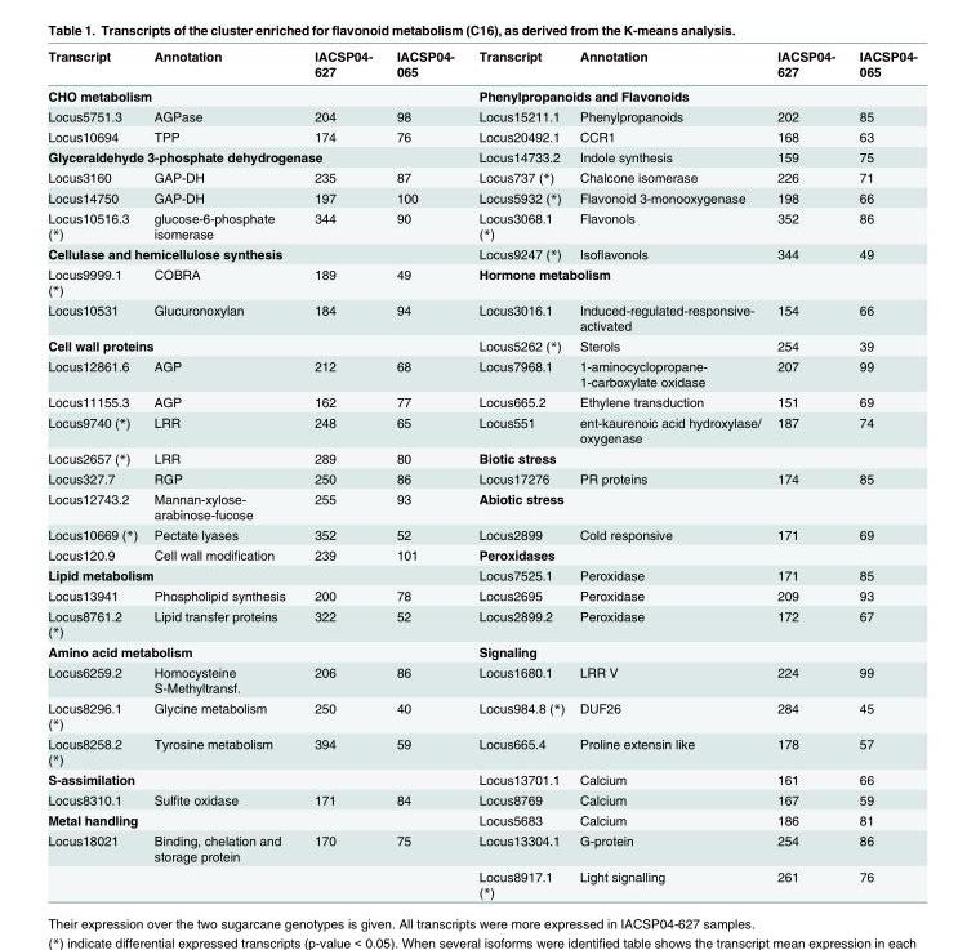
<table><thead><tr><td>Transcript</td><td>Annotation</td><td>IACSP04- 627</td><td>IACSP04- 065</td><td>Transcript</td><td>Annotation</td><td>IACSP04- 627</td><td>IACSP04- 065</td></tr></thead><tbody><tr><td colspan="4">CHO metabolism</td><td colspan="4">Phenylpropanoids and Flavonoids</td></tr><tr><td>Locus5751.3</td><td>AGPase</td><td>204</td><td>98</td><td>Locus15211.1</td><td>Phenylpropanoids</td><td>202</td><td>85</td></tr><tr><td>Locus10694</td><td>TPP</td><td>174</td><td>76</td><td>Locus20492.1</td><td>CCR1</td><td>168</td><td>63</td></tr><tr><td colspan="4">Glyceraldehyde 3-phosphate dehydrogenase</td><td>Locus14733.2</td><td>Indole synthesis</td><td>159</td><td>75</td></tr><tr><td>Locus3160</td><td>GAP-DH</td><td>235</td><td>87</td><td>Locus737 (*)</td><td>Chalcone isomerase</td><td>226</td><td>71</td></tr><tr><td>Locus14750</td><td>GAP-DH</td><td>197</td><td>100</td><td>Locus5932 (*)</td><td>Flavonoid 3-monooxygenase</td><td>198</td><td>66</td></tr><tr><td>Locus10516.3 (*)</td><td>glucose-6-phosphate isomerase</td><td>344</td><td>90</td><td>Locus3068.1 (*)</td><td>Flavonols</td><td>352</td><td>86</td></tr><tr><td colspan="4">Cellulase and hemicellulose synthesis</td><td>Locus9247 (*)</td><td>Isoflavonols</td><td>344</td><td>49</td></tr><tr><td>Locus9999.1 (*)</td><td>COBRA</td><td>189</td><td>49</td><td colspan="4">Hormone metabolism</td></tr><tr><td>Locus10531</td><td>Glucuronoxylan</td><td>184</td><td>94</td><td>Locus3016.1</td><td>Induced-regulated-responsive- activated</td><td>154</td><td>66</td></tr><tr><td colspan="4">Cell wall proteins</td><td>Locus5262 (*)</td><td>Sterols</td><td>254</td><td>39</td></tr><tr><td>Locus12861.6</td><td>AGP</td><td>212</td><td>68</td><td>Locus7968.1</td><td>1-aminocyclopropane- 1-carboxylate oxidase</td><td>207</td><td>99</td></tr><tr><td>Locus11155.3</td><td>AGP</td><td>162</td><td>77</td><td>Locus665.2</td><td>Ethylene transduction</td><td>151</td><td>69</td></tr><tr><td>Locus9740 (*)</td><td>LRR</td><td>248</td><td>65</td><td>Locus551</td><td>ent-kaurenoic acid hydroxylase/ oxygenase</td><td>187</td><td>74</td></tr><tr><td>Locus2657 (*)</td><td>LRR</td><td>289</td><td>80</td><td colspan="4">Biotic stress</td></tr><tr><td>Locus327.7</td><td>RGP</td><td>250</td><td>86</td><td>Locus17276</td><td>PR proteins</td><td>174</td><td>85</td></tr><tr><td>Locus12743.2</td><td>Mannan-xylose- arabinose-fucose</td><td>255</td><td>93</td><td colspan="4">Abiotic stress</td></tr><tr><td>Locus10669 (*)</td><td>Pectate lyases</td><td>352</td><td>52</td><td>Locus2899</td><td>Cold responsive</td><td>171</td><td>69</td></tr><tr><td>Locus120.9</td><td>Cell wall modification</td><td>239</td><td>101</td><td colspan="4">Peroxidases</td></tr><tr><td colspan="4">Lipid metabolism</td><td>Locus7525.1</td><td>Peroxidase</td><td>171</td><td>85</td></tr><tr><td>Locus13941</td><td>Phospholipid synthesis</td><td>200</td><td>78</td><td>Locus2695</td><td>Peroxidase</td><td>209</td><td>93</td></tr><tr><td>Locus8761.2 (*)</td><td>Lipid transfer proteins</td><td>322</td><td>52</td><td>Locus2899.2</td><td>Peroxidase</td><td>172</td><td>67</td></tr><tr><td colspan="4">Amino acid metabolism</td><td colspan="4">Signaling</td></tr><tr><td>Locus6259.2</td><td>Homocysteine S-Methyltransf.</td><td>206</td><td>86</td><td>Locus1680.1</td><td>LRR V</td><td>224</td><td>99</td></tr><tr><td>Locus8296.1 (*)</td><td>Glycine metabolism</td><td>250</td><td>40</td><td>Locus984.8 (*)</td><td>DUF26</td><td>284</td><td>45</td></tr><tr><td>Locus8258.2 (*)</td><td>Tyrosine metabolism</td><td>394</td><td>59</td><td>Locus665.4</td><td>Proline extensin like</td><td>178</td><td>57</td></tr><tr><td colspan="4">S-assimilation</td><td>Locus13701.1</td><td>Calcium</td><td>161</td><td>66</td></tr><tr><td>Locus8310.1</td><td>Sulfite oxidase</td><td>171</td><td>84</td><td>Locus8769</td><td>Calcium</td><td>167</td><td>59</td></tr><tr><td colspan="4">Metal handling</td><td>Locus5683</td><td>Calcium</td><td>186</td><td>81</td></tr><tr><td rowspan="2">Locus18021</td><td>Binding, chelation and storage protein</td><td>170</td><td>75</td><td>Locus13304.1</td><td>G-protein</td><td>254</td><td>86</td></tr><tr><td></td><td></td><td></td><td>Locus8917.1 (*)</td><td>Light signalling</td><td>261</td><td>76</td></tr></tbody></table>